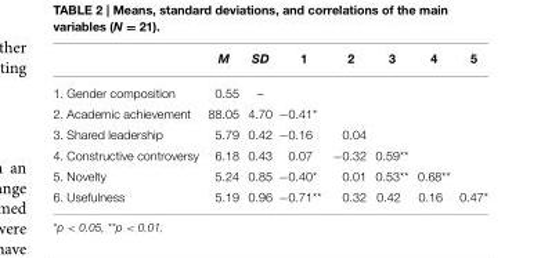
<table><thead><tr><td></td><td>M</td><td>SD</td><td>1</td><td>2</td><td>3</td><td>4</td><td>5</td></tr></thead><tbody><tr><td>1. Gender composition</td><td>0.55</td><td>–</td><td></td><td></td><td></td><td></td><td></td></tr><tr><td>2. Academic achievement</td><td>88.05</td><td>4.70</td><td>−0.41*</td><td></td><td></td><td></td><td></td></tr><tr><td>3. Shared leadership</td><td>5.79</td><td>0.42</td><td>−0.16</td><td>0.04</td><td></td><td></td><td></td></tr><tr><td>4. Constructive controversy</td><td>6.18</td><td>0.43</td><td>0.07</td><td>−0.32</td><td>0.59**</td><td></td><td></td></tr><tr><td>5. Novelty</td><td>5.24</td><td>0.85</td><td>−0.40*</td><td>0.01</td><td>0.53**</td><td>0.68**</td><td></td></tr><tr><td>6. Usefulness</td><td>5.19</td><td>0.96</td><td>−0.71**</td><td>0.32</td><td>0.42</td><td>0.16</td><td>0.47*</td></tr></tbody></table>